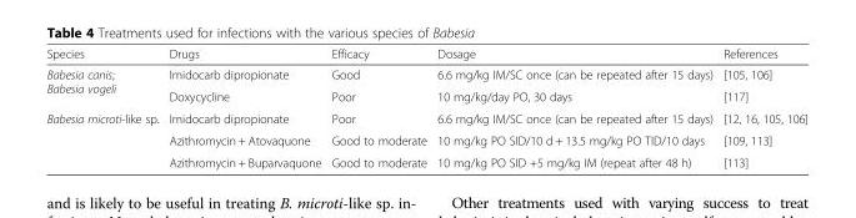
<table><thead><tr><td>Species</td><td>Drugs</td><td>Efficacy</td><td>Dosage</td><td>References</td></tr></thead><tbody><tr><td rowspan="2">Babesia canis; Babesia vogeli</td><td>Imidocarb dipropionate</td><td>Good</td><td>6.6 mg/kg IM/SC once (can be repeated after 15 days)</td><td>[105, 106]</td></tr><tr><td>Doxycycline</td><td>Poor</td><td>10 mg/kg/day PO, 30 days</td><td>[117]</td></tr><tr><td rowspan="3">Babesia microti-like sp.</td><td>Imidocarb dipropionate</td><td>Poor</td><td>6.6 mg/kg IM/SC once (can be repeated after 15 days)</td><td>[12, 16, 105, 106]</td></tr><tr><td>Azithromycin + Atovaquone</td><td>Good to moderate</td><td>10 mg/kg PO SID/10 d + 13.5 mg/kg PO TID/10 days</td><td>[109, 113]</td></tr><tr><td>Azithromycin + Buparvaquone</td><td>Good to moderate</td><td>10 mg/kg PO SID +5 mg/kg IM (repeat after 48 h)</td><td>[113]</td></tr></tbody></table>